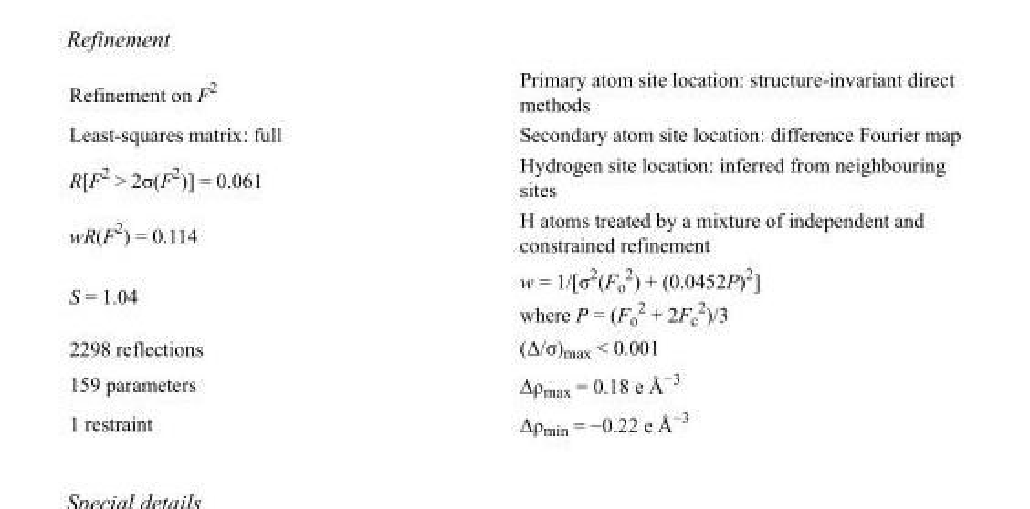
<table><tbody><tr><td>Refinement on F<sup>2</sup></td><td>Primary atom site location: structure-invariant direct methods</td></tr><tr><td>Least-squares matrix: full</td><td>Secondary atom site location: difference Fourier map</td></tr><tr><td>R[F<sup>2</sup> &gt; 2σ(F<sup>2</sup>)] = 0.061</td><td>Hydrogen site location: inferred from neighbouring sites</td></tr><tr><td>wR(F<sup>2</sup>) = 0.114</td><td>H atoms treated by a mixture of independent and constrained refinement</td></tr><tr><td>S = 1.04</td><td>w = 1/[σ<sup>2</sup>(F<sub>o</sub> <sup>2</sup>) + (0.0452P)<sup>2</sup>] where P = (F<sub>o</sub> <sup>2</sup> + 2F<sub>c</sub> <sup>2</sup>)/3</td></tr><tr><td>2298 reflections</td><td>(Δ/σ)<sub>max</sub> &lt; 0.001</td></tr><tr><td>159 parameters</td><td>Δρ<sub>max</sub> = 0.18 e Å<sup>−3</sup></td></tr><tr><td>1 restraint</td><td>Δρ<sub>min</sub> = −0.22 e Å<sup>−3</sup></td></tr></tbody></table>